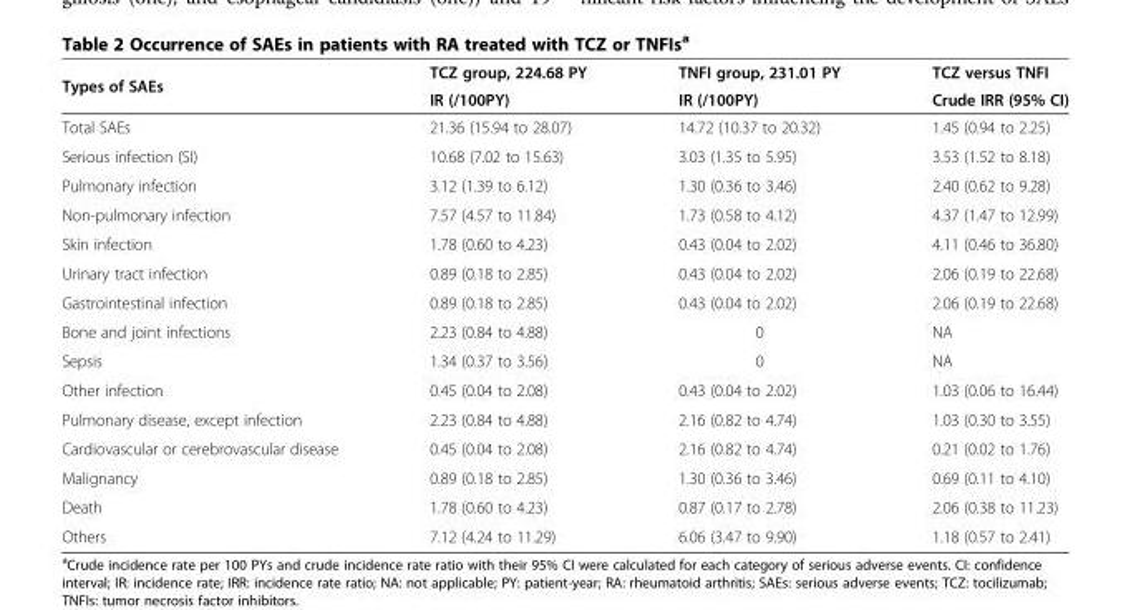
<table><thead><tr><td rowspan="2">Types of SAEs</td><td rowspan="2">TCZ group, 224.68 PY IR (/100PY)</td><td rowspan="2">TNFI group, 231.01 PY IR (/100PY)</td><td rowspan="2">TCZ versus TNFI Crude IRR (95% CI)</td></tr><tr></tr></thead><tbody><tr><td>Total SAEs</td><td>21.36 (15.94 to 28.07)</td><td>14.72 (10.37 to 20.32)</td><td>1.45 (0.94 to 2.25)</td></tr><tr><td>Serious infection (SI)</td><td>10.68 (7.02 to 15.63)</td><td>3.03 (1.35 to 5.95)</td><td>3.53 (1.52 to 8.18)</td></tr><tr><td>Pulmonary infection</td><td>3.12 (1.39 to 6.12)</td><td>1.30 (0.36 to 3.46)</td><td>2.40 (0.62 to 9.28)</td></tr><tr><td>Non-pulmonary infection</td><td>7.57 (4.57 to 11.84)</td><td>1.73 (0.58 to 4.12)</td><td>4.37 (1.47 to 12.99)</td></tr><tr><td>Skin infection</td><td>1.78 (0.60 to 4.23)</td><td>0.43 (0.04 to 2.02)</td><td>4.11 (0.46 to 36.80)</td></tr><tr><td>Urinary tract infection</td><td>0.89 (0.18 to 2.85)</td><td>0.43 (0.04 to 2.02)</td><td>2.06 (0.19 to 22.68)</td></tr><tr><td>Gastrointestinal infection</td><td>0.89 (0.18 to 2.85)</td><td>0.43 (0.04 to 2.02)</td><td>2.06 (0.19 to 22.68)</td></tr><tr><td>Bone and joint infections</td><td>2.23 (0.84 to 4.88)</td><td>0</td><td>NA</td></tr><tr><td>Sepsis</td><td>1.34 (0.37 to 3.56)</td><td>0</td><td>NA</td></tr><tr><td>Other infection</td><td>0.45 (0.04 to 2.08)</td><td>0.43 (0.04 to 2.02)</td><td>1.03 (0.06 to 16.44)</td></tr><tr><td>Pulmonary disease, except infection</td><td>2.23 (0.84 to 4.88)</td><td>2.16 (0.82 to 4.74)</td><td>1.03 (0.30 to 3.55)</td></tr><tr><td>Cardiovascular or cerebrovascular disease</td><td>0.45 (0.04 to 2.08)</td><td>2.16 (0.82 to 4.74)</td><td>0.21 (0.02 to 1.76)</td></tr><tr><td>Malignancy</td><td>0.89 (0.18 to 2.85)</td><td>1.30 (0.36 to 3.46)</td><td>0.69 (0.11 to 4.10)</td></tr><tr><td>Death</td><td>1.78 (0.60 to 4.23)</td><td>0.87 (0.17 to 2.78)</td><td>2.06 (0.38 to 11.23)</td></tr><tr><td>Others</td><td>7.12 (4.24 to 11.29)</td><td>6.06 (3.47 to 9.90)</td><td>1.18 (0.57 to 2.41)</td></tr></tbody></table>